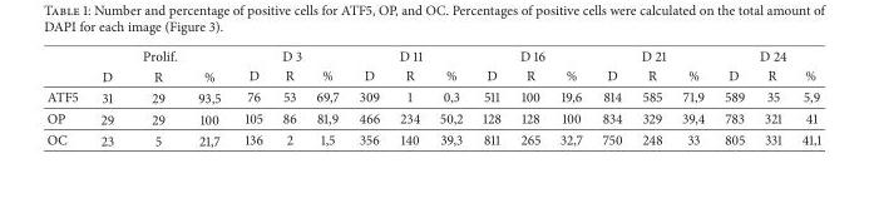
<table><thead><tr><td rowspan="2"></td><td colspan="3">Prolif.</td><td colspan="3">D 3</td><td colspan="3">D 11</td><td colspan="3">D 16</td><td colspan="3">D 21</td><td colspan="3">D 24</td></tr><tr><td>D</td><td>R</td><td>%</td><td>D</td><td>R</td><td>%</td><td>D</td><td>R</td><td>%</td><td>D</td><td>R</td><td>%</td><td>D</td><td>R</td><td>%</td><td>D</td><td>R</td><td>%</td></tr></thead><tbody><tr><td>ATF5</td><td>31</td><td>29</td><td>93,5</td><td>76</td><td>53</td><td>69,7</td><td>309</td><td>1</td><td>0,3</td><td>511</td><td>100</td><td>19,6</td><td>814</td><td>585</td><td>71,9</td><td>589</td><td>35</td><td>5,9</td></tr><tr><td>OP</td><td>29</td><td>29</td><td>100</td><td>105</td><td>86</td><td>81,9</td><td>466</td><td>234</td><td>50,2</td><td>128</td><td>128</td><td>100</td><td>834</td><td>329</td><td>39,4</td><td>783</td><td>321</td><td>41</td></tr><tr><td>OC</td><td>23</td><td>5</td><td>21,7</td><td>136</td><td>2</td><td>1,5</td><td>356</td><td>140</td><td>39,3</td><td>811</td><td>265</td><td>32,7</td><td>750</td><td>248</td><td>33</td><td>805</td><td>331</td><td>41,1</td></tr></tbody></table>